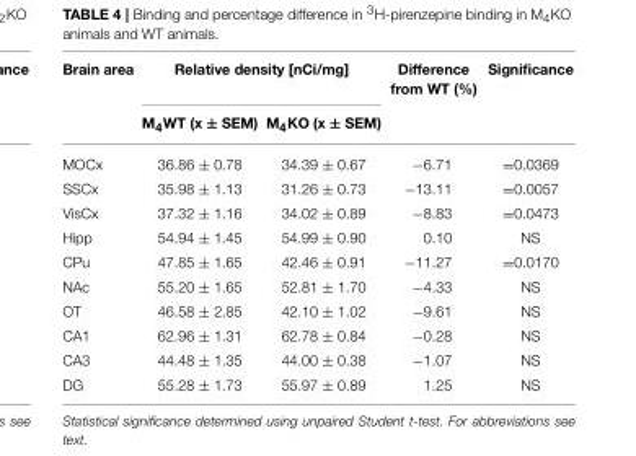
<table><thead><tr><td rowspan="2">Brain area</td><td colspan="2">Relative density [nCi/mg]</td><td rowspan="2">Difference from WT (%)</td><td rowspan="2">Significance</td></tr><tr><td>M<sub>4</sub>WT (x ± SEM)</td><td>M<sub>4</sub>KO (x ± SEM)</td></tr></thead><tbody><tr><td>MOCx</td><td>36.86 ± 0.78</td><td>34.39 ± 0.67</td><td>−6.71</td><td>=0.0369</td></tr><tr><td>SSCx</td><td>35.98 ± 1.13</td><td>31.26 ± 0.73</td><td>−13.11</td><td>=0.0057</td></tr><tr><td>VisCx</td><td>37.32 ± 1.16</td><td>34.02 ± 0.89</td><td>−8.83</td><td>=0.0473</td></tr><tr><td>Hipp</td><td>54.94 ± 1.45</td><td>54.99 ± 0.90</td><td>0.10</td><td>NS</td></tr><tr><td>CPu</td><td>47.85 ± 1.65</td><td>42.46 ± 0.91</td><td>−11.27</td><td>=0.0170</td></tr><tr><td>NAc</td><td>55.20 ± 1.65</td><td>52.81 ± 1.70</td><td>−4.33</td><td>NS</td></tr><tr><td>OT</td><td>46.58 ± 2.85</td><td>42.10 ± 1.02</td><td>−9.61</td><td>NS</td></tr><tr><td>CA1</td><td>62.96 ± 1.31</td><td>62.78 ± 0.84</td><td>−0.28</td><td>NS</td></tr><tr><td>CA3</td><td>44.48 ± 1.35</td><td>44.00 ± 0.38</td><td>−1.07</td><td>NS</td></tr><tr><td>DG</td><td>55.28 ± 1.73</td><td>55.97 ± 0.89</td><td>1.25</td><td>NS</td></tr></tbody></table>